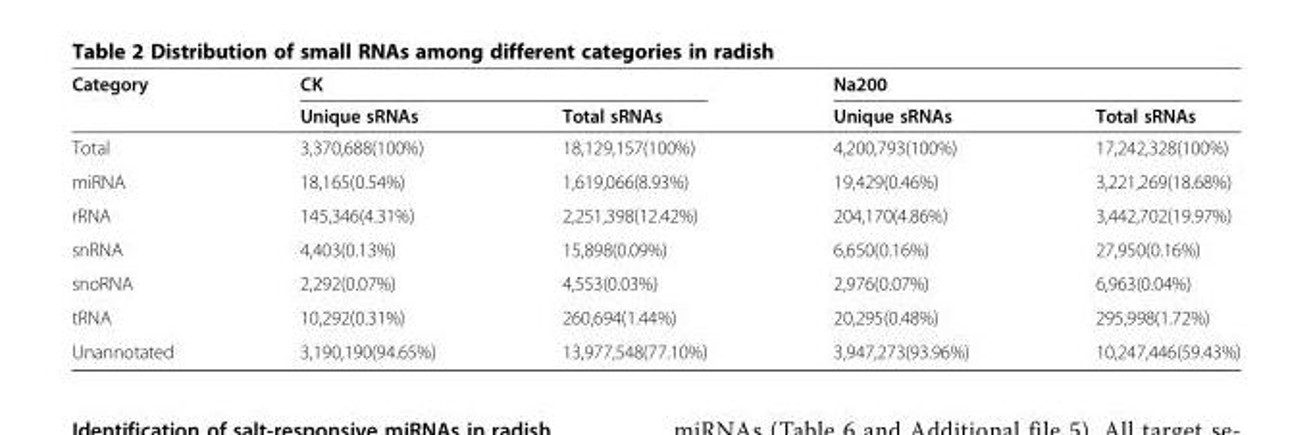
<table><thead><tr><td rowspan="2">Category</td><td colspan="2">CK</td><td colspan="2">Na200</td></tr><tr><td>Unique sRNAs</td><td>Total sRNAs</td><td>Unique sRNAs</td><td>Total sRNAs</td></tr></thead><tbody><tr><td>Total</td><td>3,370,688(100%)</td><td>18,129,157(100%)</td><td>4,200,793(100%)</td><td>17,242,328(100%)</td></tr><tr><td>miRNA</td><td>18,165(0.54%)</td><td>1,619,066(8.93%)</td><td>19,429(0.46%)</td><td>3,221,269(18.68%)</td></tr><tr><td>rRNA</td><td>145,346(4.31%)</td><td>2,251,398(12.42%)</td><td>204,170(4.86%)</td><td>3,442,702(19.97%)</td></tr><tr><td>snRNA</td><td>4,403(0.13%)</td><td>15,898(0.09%)</td><td>6,650(0.16%)</td><td>27,950(0.16%)</td></tr><tr><td>snoRNA</td><td>2,292(0.07%)</td><td>4,553(0.03%)</td><td>2,976(0.07%)</td><td>6,963(0.04%)</td></tr><tr><td>tRNA</td><td>10,292(0.31%)</td><td>260,694(1.44%)</td><td>20,295(0.48%)</td><td>295,998(1.72%)</td></tr><tr><td>Unannotated</td><td>3,190,190(94.65%)</td><td>13,977,548(77.10%)</td><td>3,947,273(93.96%)</td><td>10,247,446(59.43%)</td></tr></tbody></table>